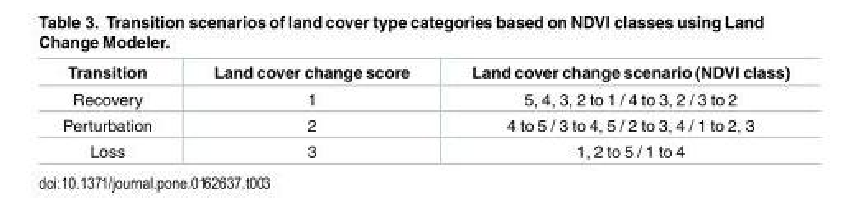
<table><thead><tr><td>Transition</td><td>Land cover change score</td><td>Land cover change scenario (NDVI class)</td></tr></thead><tbody><tr><td>Recovery</td><td>1</td><td>5, 4, 3, 2 to 1 / 4 to 3, 2 / 3 to 2</td></tr><tr><td>Perturbation</td><td>2</td><td>4 to 5 / 3 to 4, 5 / 2 to 3, 4 / 1 to 2, 3</td></tr><tr><td>Loss</td><td>3</td><td>1, 2 to 5 / 1 to 4</td></tr></tbody></table>